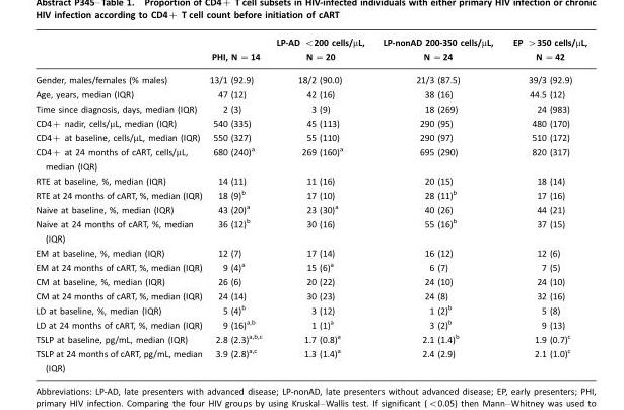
<table><thead><tr><td></td><td>PHI, N =14</td><td>LP-AD &lt;200 cells/µL, N =20</td><td>LP-nonAD 200-350 cells/µL, N =24</td><td>EP &gt;350 cells/µL, N =42</td></tr></thead><tbody><tr><td>Gender, males/females (% males)</td><td>13/1 (92.9)</td><td>18/2 (90.0)</td><td>21/3 (87.5)</td><td>39/3 (92.9)</td></tr><tr><td>Age, years, median (IQR)</td><td>47 (12)</td><td>42 (16)</td><td>38 (16)</td><td>44.5 (12)</td></tr><tr><td>Time since diagnosis, days, median (IQR)</td><td>2 (3)</td><td>3 (9)</td><td>18 (269)</td><td>24 (983)</td></tr><tr><td>CD4+ nadir, cells/µL, median (IQR)</td><td>540 (335)</td><td>45 (113)</td><td>290 (95)</td><td>480 (170)</td></tr><tr><td>CD4+ at baseline, cells/µL, median (IQR)</td><td>550 (327)</td><td>55 (110)</td><td>290 (97)</td><td>510 (172)</td></tr><tr><td>CD4+ at 24 months of cART, cells/µL, median (IQR)</td><td>680 (240)a</td><td>269 (160)a</td><td>695 (290)</td><td>820 (317)</td></tr><tr><td>RTE at baseline, %, median (IQR)</td><td>14 (11)</td><td>11 (16)</td><td>20 (15)</td><td>18 (14)</td></tr><tr><td>RTE at 24 months of cART, %, median (IQR)</td><td>18 (9)b</td><td>17 (10)</td><td>28 (11)b</td><td>17 (16)</td></tr><tr><td>Naive at baseline, %, median (IQR)</td><td>43 (20)a</td><td>23 (30)a</td><td>40 (26)</td><td>44 (21)</td></tr><tr><td>Naive at 24 months of cART, %, median (IQR)</td><td>36 (12)b</td><td>30 (16)</td><td>55 (16)b</td><td>37 (15)</td></tr><tr><td>EM at baseline, %, median (IQR)</td><td>12 (7)</td><td>17 (14)</td><td>16 (12)</td><td>12 (6)</td></tr><tr><td>EM at 24 months of cART, %, median (IQR)</td><td>9 (4)a</td><td>15 (6)a</td><td>6 (7)</td><td>7 (5)</td></tr><tr><td>CM at baseline, %, median (IQR)</td><td>26 (6)</td><td>20 (22)</td><td>24 (10)</td><td>24 (10)</td></tr><tr><td>CM at 24 months of cART, %, median (IQR)</td><td>24 (14)</td><td>30 (23)</td><td>24 (8)</td><td>32 (16)</td></tr><tr><td>LD at baseline, %, median (IQR)</td><td>5 (4)b</td><td>3 (12)</td><td>1 (2)b</td><td>5 (8)</td></tr><tr><td>LD at 24 months of cART, %, median (IQR)</td><td>9 (16)a,b</td><td>1 (1)a</td><td>3 (2)b</td><td>9 (13)</td></tr><tr><td>TSLP at baseline, pg/mL, median (IQR)</td><td>2.8 (2.3)a,b,c</td><td>1.7 (0.8)a</td><td>2.1 (1.4)b</td><td>1.9 (0.7)c</td></tr><tr><td>TSLP at 24 months of cART, pg/mL, median (IQR)</td><td>3.9 (2.8)a,c</td><td>1.3 (1.4)a</td><td>2.4 (2.9)</td><td>2.1 (1.0)c</td></tr></tbody></table>